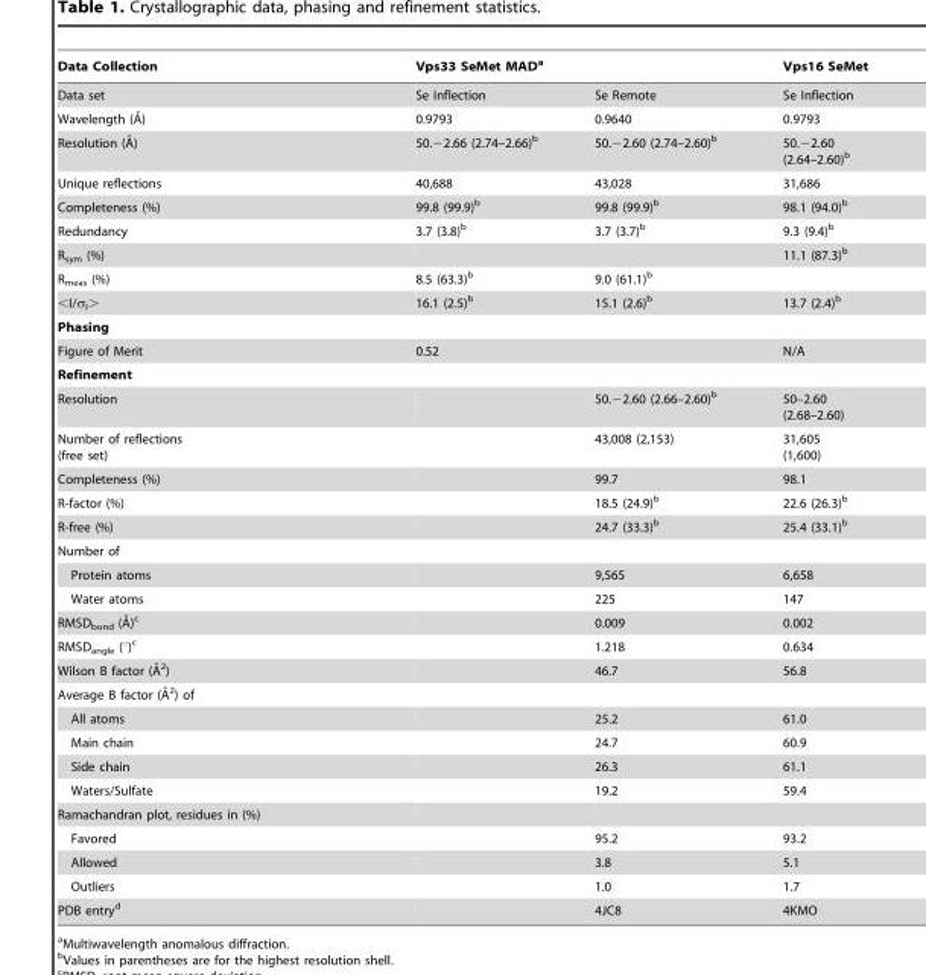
<table><thead><tr><td rowspan="2">Data Collection Data set</td><td colspan="2">Vps33 SeMet MAD<sup>a</sup></td><td rowspan="2">Vps16 SeMet Se Inflection</td></tr><tr><td>Se Inflection</td><td>Se Remote</td></tr></thead><tbody><tr><td>Wavelength (A˚)</td><td>0.9793</td><td>0.9640</td><td>0.9793</td></tr><tr><td>Resolution (A˚)</td><td>50.−2.66 (2.74–2.66)<sup>b</sup></td><td>50.−2.60 (2.74–2.60)<sup>b</sup></td><td>50.−2.60 (2.64–2.60)<sup>b</sup></td></tr><tr><td>Unique reflections</td><td>40,688</td><td>43,028</td><td>31,686</td></tr><tr><td>Completeness (%)</td><td>99.8 (99.9)<sup>b</sup></td><td>99.8 (99.9)<sup>b</sup></td><td>98.1 (94.0)<sup>b</sup></td></tr><tr><td>Redundancy</td><td>3.7 (3.8)<sup>b</sup></td><td>3.7 (3.7)<sup>b</sup></td><td>9.3 (9.4)<sup>b</sup></td></tr><tr><td>R<sub>sym</sub> (%)</td><td></td><td></td><td>11.1 (87.3)<sup>b</sup></td></tr><tr><td>R<sub>meas</sub> (%)</td><td>8.5 (63.3)<sup>b</sup></td><td>9.0 (61.1)<sup>b</sup></td><td></td></tr><tr><td>&lt;I/σ<sub>I</sub>&gt;</td><td>16.1 (2.5)<sup>b</sup></td><td>15.1 (2.6)<sup>b</sup></td><td>13.7 (2.4)<sup>b</sup></td></tr><tr><td colspan="4">Phasing</td></tr><tr><td>Figure of Merit</td><td colspan="2">0.52</td><td>N/A</td></tr><tr><td colspan="4">Refinement</td></tr><tr><td>Resolution</td><td></td><td>50.−2.60 (2.66–2.60)<sup>b</sup></td><td>50–2.60 (2.68–2.60)</td></tr><tr><td>Number of reflections (free set)</td><td></td><td>43,008 (2,153)</td><td>31,605 (1,600)</td></tr><tr><td>Completeness (%)</td><td></td><td>99.7</td><td>98.1</td></tr><tr><td>R-factor (%)</td><td></td><td>18.5 (24.9)<sup>b</sup></td><td>22.6 (26.3)<sup>b</sup></td></tr><tr><td>R-free (%)</td><td></td><td>24.7 (33.3)<sup>b</sup></td><td>25.4 (33.1)<sup>b</sup></td></tr><tr><td colspan="4">Number of</td></tr><tr><td>Protein atoms</td><td></td><td>9,565</td><td>6,658</td></tr><tr><td>Water atoms</td><td></td><td>225</td><td>147</td></tr><tr><td>RMSDbond (A˚)c</td><td></td><td>0.009</td><td>0.002</td></tr><tr><td>RMSD<sub>angle</sub> (°)<sup>c</sup></td><td></td><td>1.218</td><td>0.634</td></tr><tr><td>Wilson B factor (A˚2)</td><td></td><td>46.7</td><td>56.8</td></tr><tr><td colspan="4">Average B factor (A˚2) of</td></tr><tr><td>All atoms</td><td></td><td>25.2</td><td>61.0</td></tr><tr><td>Main chain</td><td></td><td>24.7</td><td>60.9</td></tr><tr><td>Side chain</td><td></td><td>26.3</td><td>61.1</td></tr><tr><td>Waters/Sulfate</td><td></td><td>19.2</td><td>59.4</td></tr><tr><td colspan="4">Ramachandran plot, residues in (%)</td></tr><tr><td>Favored</td><td></td><td>95.2</td><td>93.2</td></tr><tr><td>Allowed</td><td></td><td>3.8</td><td>5.1</td></tr><tr><td>Outliers</td><td></td><td>1.0</td><td>1.7</td></tr><tr><td>PDB entry<sup>d</sup></td><td></td><td>4JC8</td><td>4KMO</td></tr></tbody></table>